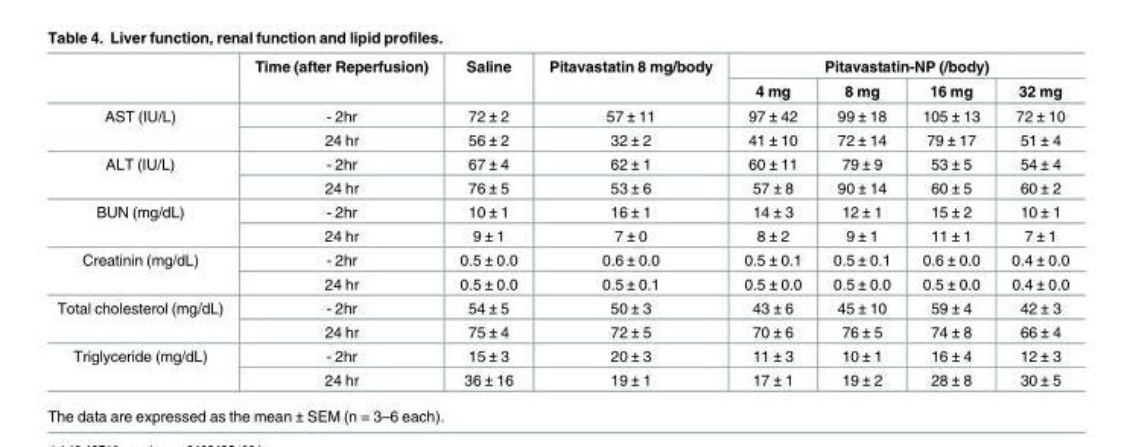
<table><thead><tr><td rowspan="2"></td><td rowspan="2">Time (after Reperfusion)</td><td rowspan="2">Saline</td><td rowspan="2">Pitavastatin 8 mg/body</td><td colspan="4">Pitavastatin-NP (/body)</td></tr><tr><td>4 mg</td><td>8 mg</td><td>16 mg</td><td>32 mg</td></tr></thead><tbody><tr><td rowspan="2">AST (IU/L)</td><td>- 2hr</td><td>72 ± 2</td><td>57 ± 11</td><td>97 ± 42</td><td>99 ± 18</td><td>105 ± 13</td><td>72 ± 10</td></tr><tr><td>24 hr</td><td>56 ± 2</td><td>32 ± 2</td><td>41 ± 10</td><td>72 ± 14</td><td>79 ± 17</td><td>51 ± 4</td></tr><tr><td rowspan="2">ALT (IU/L)</td><td>- 2hr</td><td>67 ± 4</td><td>62 ± 1</td><td>60 ± 11</td><td>79 ± 9</td><td>53 ± 5</td><td>54 ± 4</td></tr><tr><td>24 hr</td><td>76 ± 5</td><td>53 ± 6</td><td>57 ± 8</td><td>90 ± 14</td><td>60 ± 5</td><td>60 ± 2</td></tr><tr><td rowspan="2">BUN (mg/dL)</td><td>- 2hr</td><td>10 ± 1</td><td>16 ± 1</td><td>14 ± 3</td><td>12 ± 1</td><td>15 ± 2</td><td>10 ± 1</td></tr><tr><td>24 hr</td><td>9 ± 1</td><td>7 ± 0</td><td>8 ± 2</td><td>9 ± 1</td><td>11 ± 1</td><td>7 ± 1</td></tr><tr><td rowspan="2">Creatinin (mg/dL)</td><td>- 2hr</td><td>0.5 ± 0.0</td><td>0.6 ± 0.0</td><td>0.5 ± 0.1</td><td>0.5 ± 0.1</td><td>0.6 ± 0.0</td><td>0.4 ± 0.0</td></tr><tr><td>24 hr</td><td>0.5 ± 0.0</td><td>0.5 ± 0.1</td><td>0.5 ± 0.0</td><td>0.5 ± 0.0</td><td>0.5 ± 0.0</td><td>0.4 ± 0.0</td></tr><tr><td rowspan="2">Total cholesterol (mg/dL)</td><td>- 2hr</td><td>54 ± 5</td><td>50 ± 3</td><td>43 ± 6</td><td>45 ± 10</td><td>59 ± 4</td><td>42 ± 3</td></tr><tr><td>24 hr</td><td>75 ± 4</td><td>72 ± 5</td><td>70 ± 6</td><td>76 ± 5</td><td>74 ± 8</td><td>66 ± 4</td></tr><tr><td rowspan="2">Triglyceride (mg/dL)</td><td>- 2hr</td><td>15 ± 3</td><td>20 ± 3</td><td>11 ± 3</td><td>10 ± 1</td><td>16 ± 4</td><td>12 ± 3</td></tr><tr><td>24 hr</td><td>36 ± 16</td><td>19 ± 1</td><td>17 ± 1</td><td>19 ± 2</td><td>28 ± 8</td><td>30 ± 5</td></tr></tbody></table>